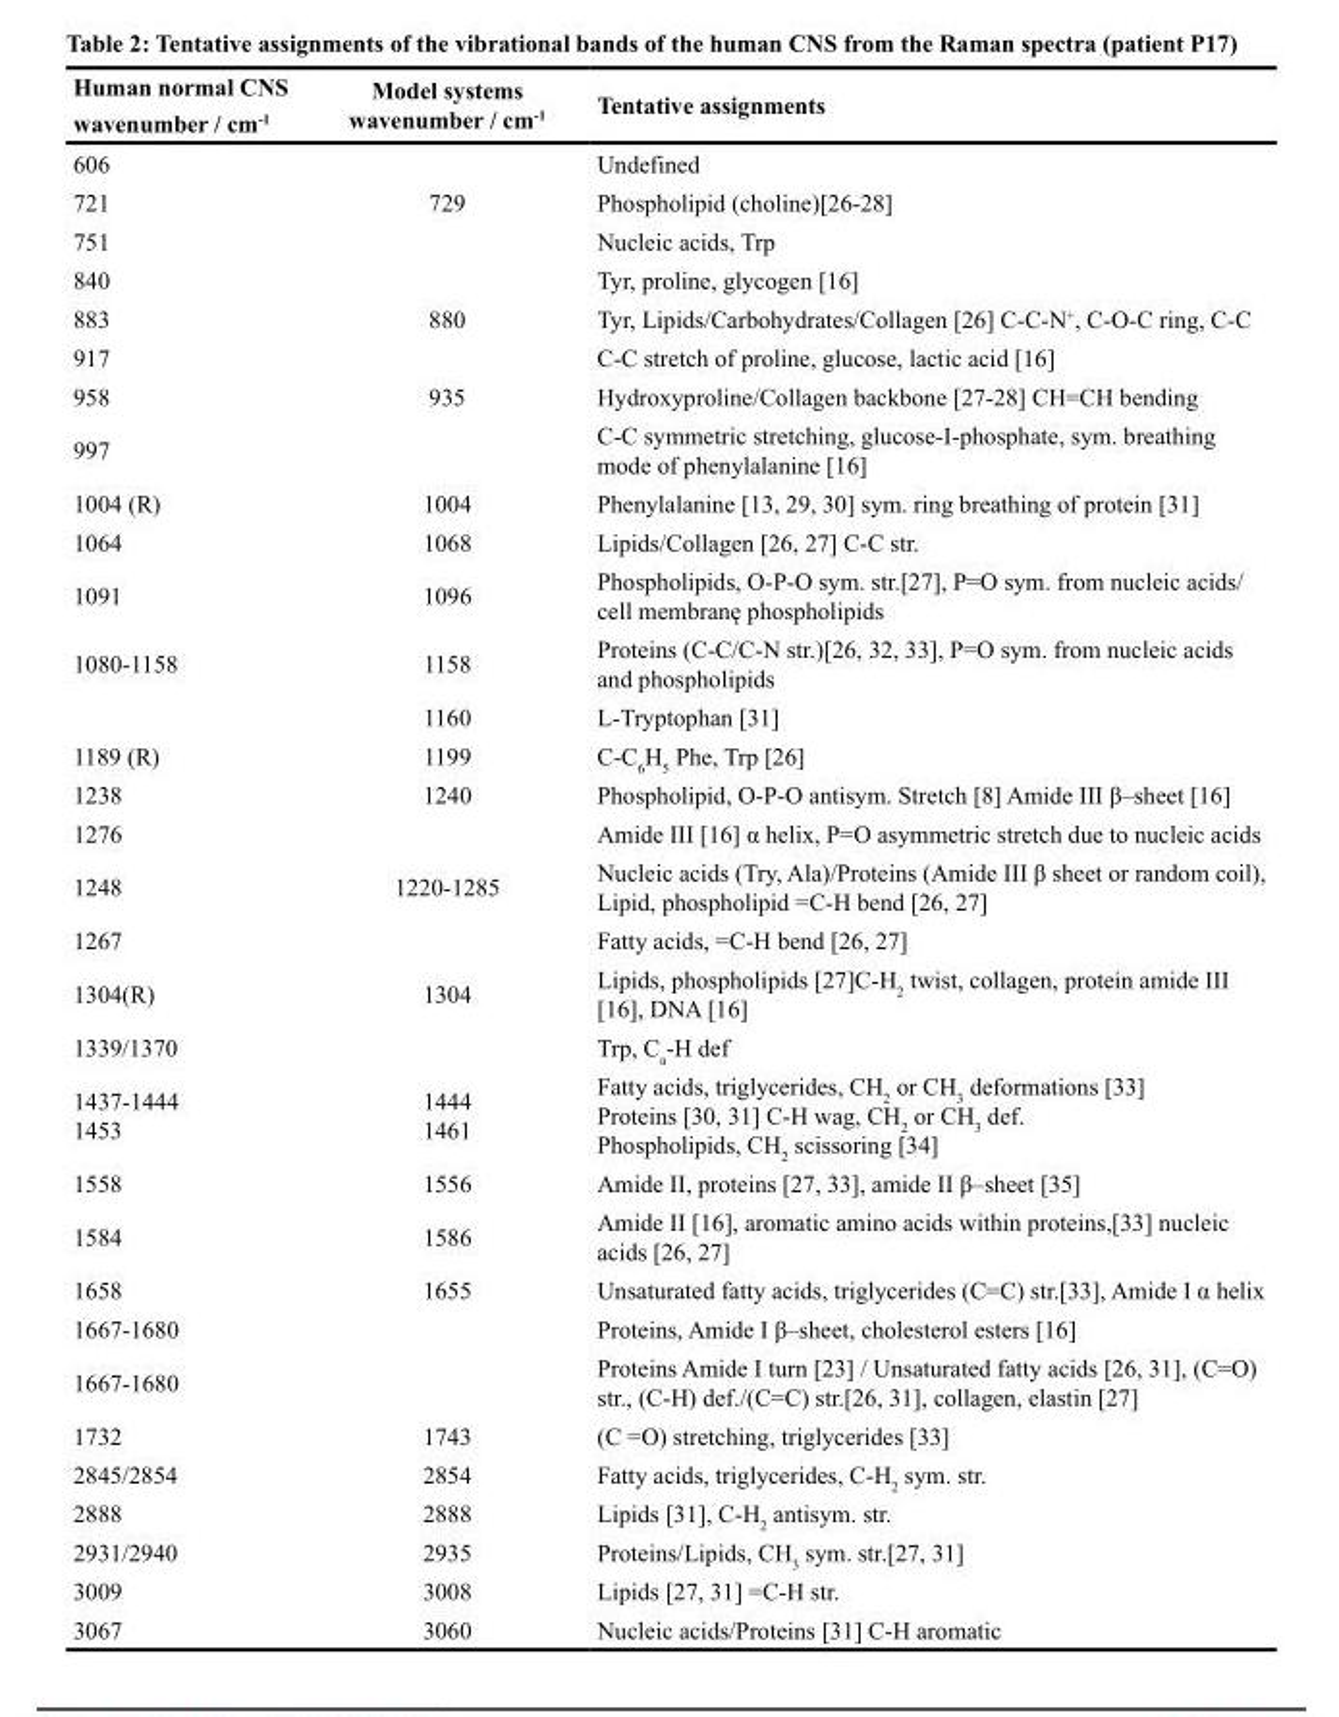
<table><thead><tr><td>Human normal CNS wavenumber / cm<sup>-1</sup></td><td>Model systems wavenumber / cm<sup>-1</sup></td><td>Tentative assignments</td></tr></thead><tbody><tr><td>606</td><td></td><td>Undefined</td></tr><tr><td>721</td><td>729</td><td>Phospholipid (choline)[26-28]</td></tr><tr><td>751</td><td></td><td>Nucleic acids, Trp</td></tr><tr><td>840</td><td></td><td>Tyr, proline, glycogen [16]</td></tr><tr><td>883</td><td>880</td><td>Tyr, Lipids/Carbohydrates/Collagen [26] C-C-N<sup>+</sup>, C-O-C ring, C-C</td></tr><tr><td>917</td><td></td><td>C-C stretch of proline, glucose, lactic acid [16]</td></tr><tr><td>958</td><td>935</td><td>Hydroxyproline/Collagen backbone [27-28] CH=CH bending</td></tr><tr><td>997</td><td></td><td>C-C symmetric stretching, glucose-I-phosphate, sym. breathing mode of phenylalanine [16]</td></tr><tr><td>1004 (R)</td><td>1004</td><td>Phenylalanine [13, 29, 30] sym. ring breathing of protein [31]</td></tr><tr><td>1064</td><td>1068</td><td>Lipids/Collagen [26, 27] C-C str.</td></tr><tr><td>1091</td><td>1096</td><td>Phospholipids, O-P-O sym. str.[27], P=O sym. from nucleic acids/ cell membranę phospholipids</td></tr><tr><td rowspan="2">1080-1158</td><td>1158</td><td>Proteins (C-C/C-N str.)[26, 32, 33], P=O sym. from nucleic acids and phospholipids</td></tr><tr><td>1160</td><td>L-Tryptophan [31]</td></tr><tr><td>1189 (R)</td><td>1199</td><td>C-C<sub>6</sub>H<sub>5</sub> Phe, Trp [26]</td></tr><tr><td>1238</td><td>1240</td><td>Phospholipid, O-P-O antisym. Stretch [8] Amide III β–sheet [16]</td></tr><tr><td>1276</td><td></td><td>Amide III [16] α helix, P=O asymmetric stretch due to nucleic acids</td></tr><tr><td>1248</td><td>1220-1285</td><td>Nucleic acids (Try, Ala)/Proteins (Amide III β sheet or random coil), Lipid, phospholipid =C-H bend [26, 27]</td></tr><tr><td>1267</td><td></td><td>Fatty acids, =C-H bend [26, 27]</td></tr><tr><td>1304(R)</td><td>1304</td><td>Lipids, phospholipids [27]C-H<sub>2</sub> twist, collagen, protein amide III [16], DNA [16]</td></tr><tr><td>1339/1370</td><td></td><td>Trp, C<sub>a</sub>-H def</td></tr><tr><td>1437-1444 1453</td><td>1444 1461</td><td>Fatty acids, triglycerides, CH<sub>2</sub> or CH<sub>3</sub> deformations [33] Proteins [30, 31] C-H wag, CH<sub>2</sub> or CH<sub>3</sub> def. Phospholipids, CH<sub>2</sub> scissoring [34]</td></tr><tr><td>1558</td><td>1556</td><td>Amide II, proteins [27, 33], amide II β–sheet [35]</td></tr><tr><td>1584</td><td>1586</td><td>Amide II [16], aromatic amino acids within proteins,[33] nucleic acids [26, 27]</td></tr><tr><td>1658</td><td>1655</td><td>Unsaturated fatty acids, triglycerides (C=C) str.[33], Amide I α helix</td></tr><tr><td>1667-1680</td><td></td><td>Proteins, Amide I β–sheet, cholesterol esters [16]</td></tr><tr><td>1667-1680</td><td></td><td>Proteins Amide I turn [23] / Unsaturated fatty acids [26, 31], (C=O) str., (C-H) def./(C=C) str.[26, 31], collagen, elastin [27]</td></tr><tr><td>1732</td><td>1743</td><td>(C =O) stretching, triglycerides [33]</td></tr><tr><td>2845/2854</td><td>2854</td><td>Fatty acids, triglycerides, C-H<sub>2</sub> sym. str.</td></tr><tr><td>2888</td><td>2888</td><td>Lipids [31], C-H<sub>2</sub> antisym. str.</td></tr><tr><td>2931/2940</td><td>2935</td><td>Proteins/Lipids, CH<sub>3</sub> sym. str.[27, 31]</td></tr><tr><td>3009</td><td>3008</td><td>Lipids [27, 31] =C-H str.</td></tr><tr><td>3067</td><td>3060</td><td>Nucleic acids/Proteins [31] C-H aromatic</td></tr></tbody></table>